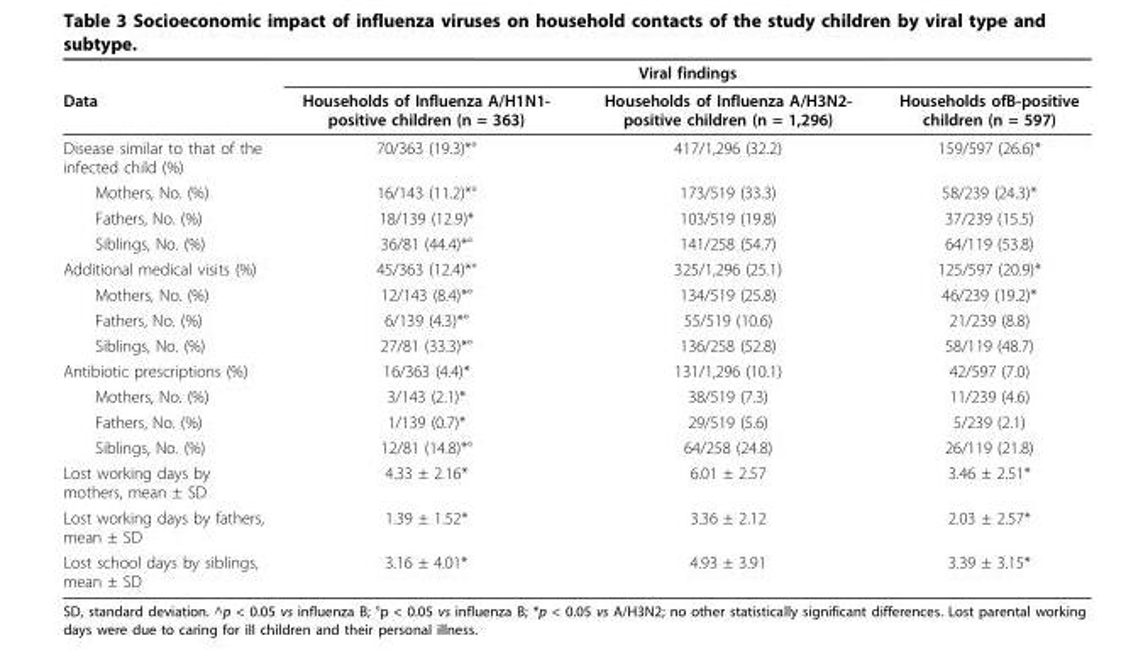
<table><thead><tr><td rowspan="2">Data</td><td colspan="3">Viral findings</td></tr><tr><td>Households of Influenza A/H1N1- positive children (n = 363)</td><td>Households of Influenza A/H3N2- positive children (n = 1,296)</td><td>Households ofB-positive children (n = 597)</td></tr></thead><tbody><tr><td>Disease similar to that of the infected child (%)</td><td>70/363 (19.3)*°</td><td>417/1,296 (32.2)</td><td>159/597 (26.6)*</td></tr><tr><td>Mothers, No. (%)</td><td>16/143 (11.2)*°</td><td>173/519 (33.3)</td><td>58/239 (24.3)*</td></tr><tr><td>Fathers, No. (%)</td><td>18/139 (12.9)*</td><td>103/519 (19.8)</td><td>37/239 (15.5)</td></tr><tr><td>Siblings, No. (%)</td><td>36/81 (44.4)*°</td><td>141/258 (54.7)</td><td>64/119 (53.8)</td></tr><tr><td>Additional medical visits (%)</td><td>45/363 (12.4)*°</td><td>325/1,296 (25.1)</td><td>125/597 (20.9)*</td></tr><tr><td>Mothers, No. (%)</td><td>12/143 (8.4)*°</td><td>134/519 (25.8)</td><td>46/239 (19.2)*</td></tr><tr><td>Fathers, No. (%)</td><td>6/139 (4.3)*°</td><td>55/519 (10.6)</td><td>21/239 (8.8)</td></tr><tr><td>Siblings, No. (%)</td><td>27/81 (33.3)*°</td><td>136/258 (52.8)</td><td>58/119 (48.7)</td></tr><tr><td>Antibiotic prescriptions (%)</td><td>16/363 (4.4)*</td><td>131/1,296 (10.1)</td><td>42/597 (7.0)</td></tr><tr><td>Mothers, No. (%)</td><td>3/143 (2.1)*</td><td>38/519 (7.3)</td><td>11/239 (4.6)</td></tr><tr><td>Fathers, No. (%)</td><td>1/139 (0.7)*</td><td>29/519 (5.6)</td><td>5/239 (2.1)</td></tr><tr><td>Siblings, No. (%)</td><td>12/81 (14.8)*°</td><td>64/258 (24.8)</td><td>26/119 (21.8)</td></tr><tr><td>Lost working days by mothers, mean ± SD</td><td>4.33 ± 2.16*</td><td>6.01 ± 2.57</td><td>3.46 ± 2.51*</td></tr><tr><td>Lost working days by fathers, mean ± SD</td><td>1.39 ± 1.52*</td><td>3.36 ± 2.12</td><td>2.03 ± 2.57*</td></tr><tr><td>Lost school days by siblings, mean ± SD</td><td>3.16 ± 4.01*</td><td>4.93 ± 3.91</td><td>3.39 ± 3.15*</td></tr></tbody></table>